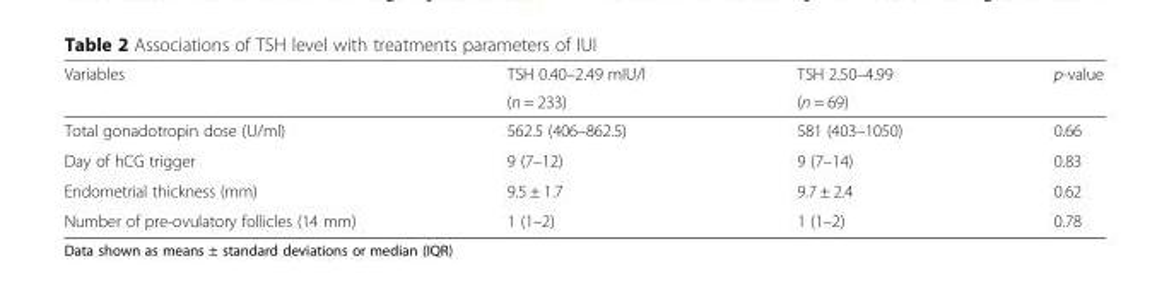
<table><thead><tr><td rowspan="2">Variables</td><td rowspan="2">TSH 0.40–2.49 mIU/l (n = 233)</td><td rowspan="2">TSH 2.50–4.99 (n = 69)</td><td rowspan="2">p-value</td></tr><tr></tr></thead><tbody><tr><td>Total gonadotropin dose (U/ml)</td><td>562.5 (406–862.5)</td><td>581 (403–1050)</td><td>0.66</td></tr><tr><td>Day of hCG trigger</td><td>9 (7–12)</td><td>9 (7–14)</td><td>0.83</td></tr><tr><td>Endometrial thickness (mm)</td><td>9.5 ± 1.7</td><td>9.7 ± 2.4</td><td>0.62</td></tr><tr><td>Number of pre-ovulatory follicles (14 mm)</td><td>1 (1–2)</td><td>1 (1–2)</td><td>0.78</td></tr></tbody></table>